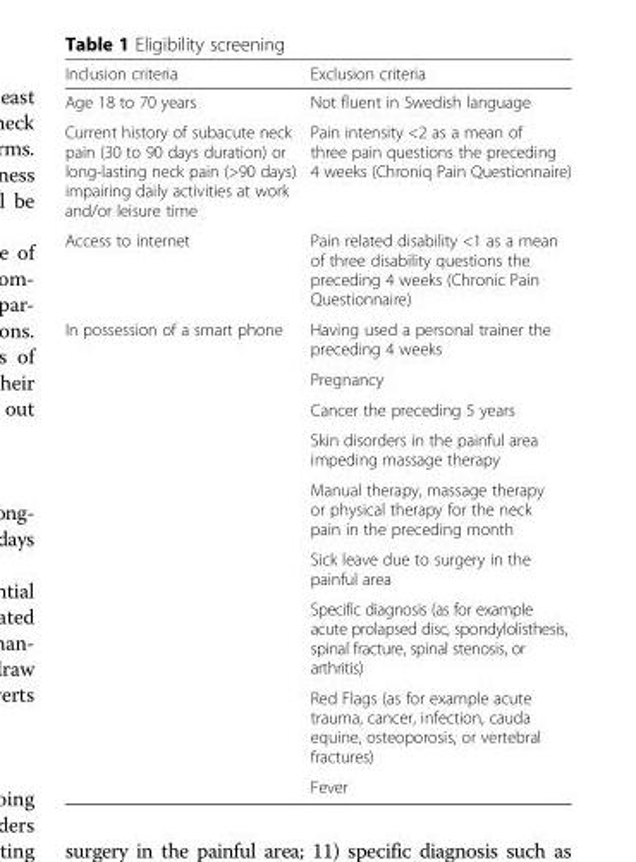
<table><thead><tr><td>Inclusion criteria</td><td>Exclusion criteria</td></tr></thead><tbody><tr><td>Age 18 to 70 years</td><td>Not fluent in Swedish language</td></tr><tr><td>Current history of subacute neck pain (30 to 90 days duration) or long-lasting neck pain (&gt;90 days) impairing daily activities at work and/or leisure time</td><td>Pain intensity &lt;2 as a mean of three pain questions the preceding 4 weeks (Chroniq Pain Questionnaire)</td></tr><tr><td>Access to internet</td><td>Pain related disability &lt;1 as a mean of three disability questions the preceding 4 weeks (Chronic Pain Questionnaire)</td></tr><tr><td rowspan="9">In possession of a smart phone</td><td>Having used a personal trainer the preceding 4 weeks</td></tr><tr><td>Pregnancy</td></tr><tr><td>Cancer the preceding 5 years</td></tr><tr><td>Skin disorders in the painful area impeding massage therapy</td></tr><tr><td>Manual therapy, massage therapy or physical therapy for the neck pain in the preceding month</td></tr><tr><td>Sick leave due to surgery in the painful area</td></tr><tr><td>Specific diagnosis (as for example acute prolapsed disc, spondylolisthesis, spinal fracture, spinal stenosis, or arthritis)</td></tr><tr><td>Red Flags (as for example acute trauma, cancer, infection, cauda equine, osteoporosis, or vertebral fractures)</td></tr><tr><td>Fever</td></tr></tbody></table>